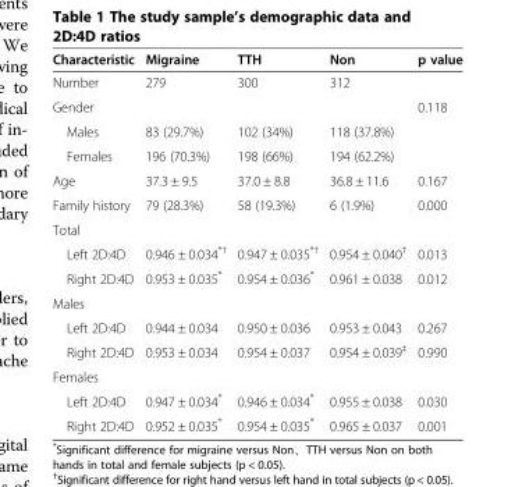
<table><thead><tr><td>Characteristic</td><td>Migraine</td><td>TTH</td><td>Non</td><td>p value</td></tr></thead><tbody><tr><td>Number</td><td>279</td><td>300</td><td>312</td><td></td></tr><tr><td>Gender</td><td></td><td></td><td></td><td>0.118</td></tr><tr><td>Males</td><td>83 (29.7%)</td><td>102 (34%)</td><td>118 (37.8%)</td><td></td></tr><tr><td>Females</td><td>196 (70.3%)</td><td>198 (66%)</td><td>194 (62.2%)</td><td></td></tr><tr><td>Age</td><td>37.3 ± 9.5</td><td>37.0 ± 8.8</td><td>36.8 ± 11.6</td><td>0.167</td></tr><tr><td>Family history</td><td>79 (28.3%)</td><td>58 (19.3%)</td><td>6 (1.9%)</td><td>0.000</td></tr><tr><td colspan="5">Total</td></tr><tr><td>Left 2D:4D</td><td>0.946 ± 0.034<sup>*†</sup></td><td>0.947 ± 0.035<sup>*†</sup></td><td>0.954 ± 0.040<sup>†</sup></td><td>0.013</td></tr><tr><td>Right 2D:4D</td><td>0.953 ± 0.035*</td><td>0.954 ± 0.036*</td><td>0.961 ± 0.038</td><td>0.012</td></tr><tr><td colspan="5">Males</td></tr><tr><td>Left 2D:4D</td><td>0.944 ± 0.034</td><td>0.950 ± 0.036</td><td>0.953 ± 0.043</td><td>0.267</td></tr><tr><td>Right 2D:4D</td><td>0.953 ± 0.034</td><td>0.954 ± 0.037</td><td>0.954 ± 0.039<sup>‡</sup></td><td>0.990</td></tr><tr><td colspan="5">Females</td></tr><tr><td>Left 2D:4D</td><td>0.947 ± 0.034*</td><td>0.946 ± 0.034*</td><td>0.955 ± 0.038</td><td>0.030</td></tr><tr><td>Right 2D:4D</td><td>0.952 ± 0.035*</td><td>0.954 ± 0.035*</td><td>0.965 ± 0.037</td><td>0.001</td></tr></tbody></table>